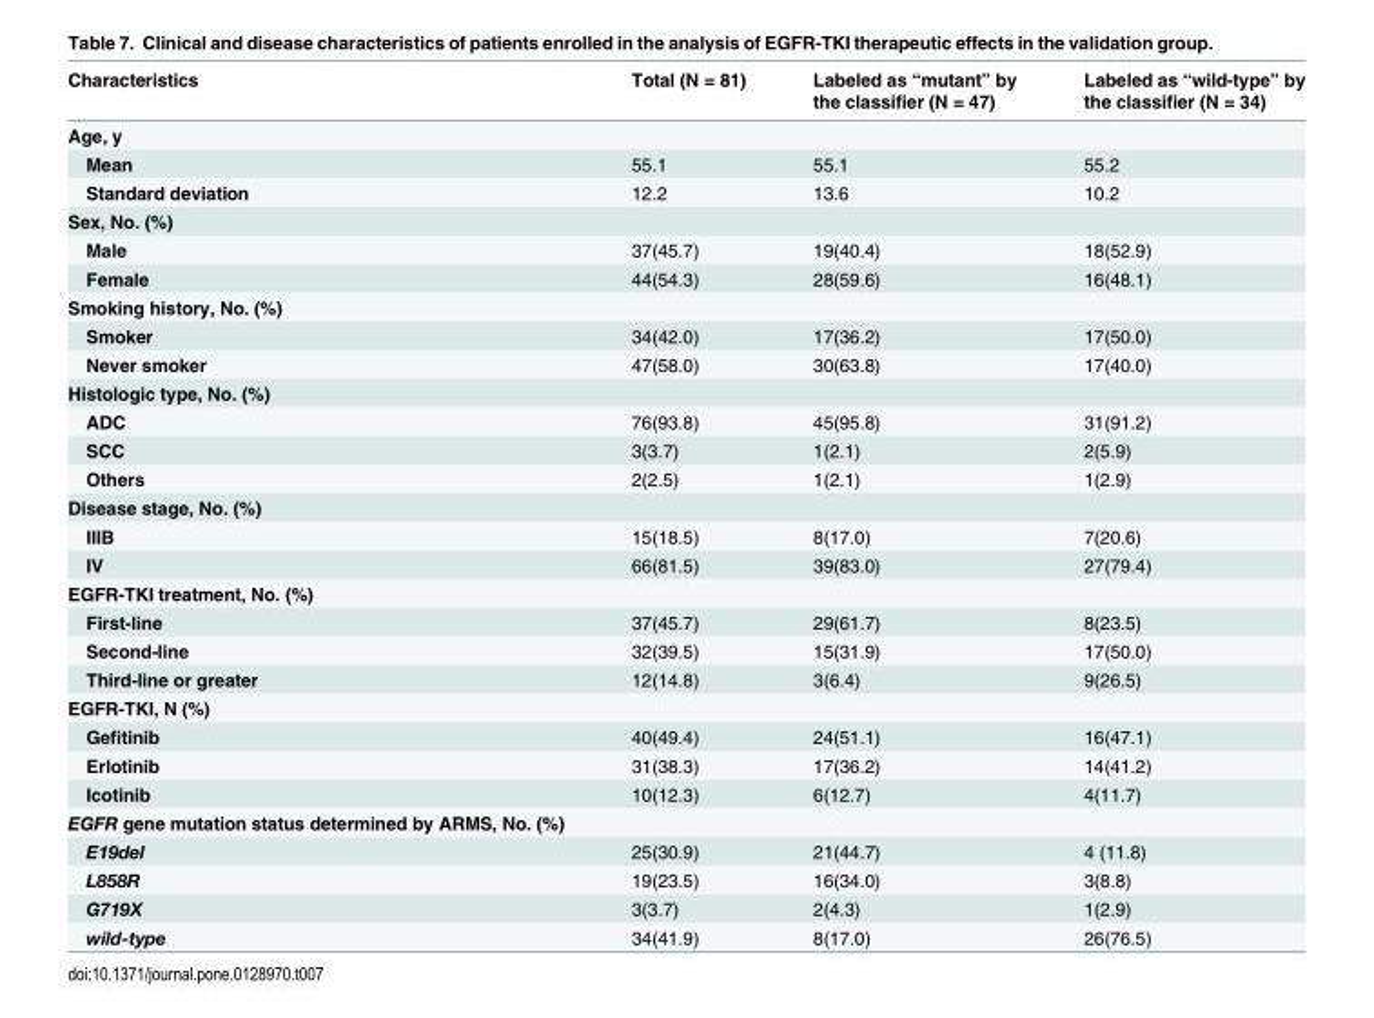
<table><thead><tr><td>Characteristics</td><td>Total (N = 81)</td><td>Labeled as “mutant” by the classifier (N = 47)</td><td>Labeled as “wild-type” by the classifier (N = 34)</td></tr></thead><tbody><tr><td colspan="4">Age, y</td></tr><tr><td>Mean</td><td>55.1</td><td>55.1</td><td>55.2</td></tr><tr><td>Standard deviation</td><td>12.2</td><td>13.6</td><td>10.2</td></tr><tr><td colspan="4">Sex, No. (%)</td></tr><tr><td>Male</td><td>37(45.7)</td><td>19(40.4)</td><td>18(52.9)</td></tr><tr><td>Female</td><td>44(54.3)</td><td>28(59.6)</td><td>16(48.1)</td></tr><tr><td colspan="4">Smoking history, No. (%)</td></tr><tr><td>Smoker</td><td>34(42.0)</td><td>17(36.2)</td><td>17(50.0)</td></tr><tr><td>Never smoker</td><td>47(58.0)</td><td>30(63.8)</td><td>17(40.0)</td></tr><tr><td colspan="4">Histologic type, No. (%)</td></tr><tr><td>ADC</td><td>76(93.8)</td><td>45(95.8)</td><td>31(91.2)</td></tr><tr><td>SCC</td><td>3(3.7)</td><td>1(2.1)</td><td>2(5.9)</td></tr><tr><td>Others</td><td>2(2.5)</td><td>1(2.1)</td><td>1(2.9)</td></tr><tr><td colspan="4">Disease stage, No. (%)</td></tr><tr><td>IIIB</td><td>15(18.5)</td><td>8(17.0)</td><td>7(20.6)</td></tr><tr><td>IV</td><td>66(81.5)</td><td>39(83.0)</td><td>27(79.4)</td></tr><tr><td colspan="4">EGFR-TKI treatment, No. (%)</td></tr><tr><td>First-line</td><td>37(45.7)</td><td>29(61.7)</td><td>8(23.5)</td></tr><tr><td>Second-line</td><td>32(39.5)</td><td>15(31.9)</td><td>17(50.0)</td></tr><tr><td>Third-line or greater</td><td>12(14.8)</td><td>3(6.4)</td><td>9(26.5)</td></tr><tr><td colspan="4">EGFR-TKI, N (%)</td></tr><tr><td>Gefitinib</td><td>40(49.4)</td><td>24(51.1)</td><td>16(47.1)</td></tr><tr><td>Erlotinib</td><td>31(38.3)</td><td>17(36.2)</td><td>14(41.2)</td></tr><tr><td>Icotinib</td><td>10(12.3)</td><td>6(12.7)</td><td>4(11.7)</td></tr><tr><td colspan="4">EGFR gene mutation status determined by ARMS, No. (%)</td></tr><tr><td>E19del</td><td>25(30.9)</td><td>21(44.7)</td><td>4 (11.8)</td></tr><tr><td>L858R</td><td>19(23.5)</td><td>16(34.0)</td><td>3(8.8)</td></tr><tr><td>G719X</td><td>3(3.7)</td><td>2(4.3)</td><td>1(2.9)</td></tr><tr><td>wild-type</td><td>34(41.9)</td><td>8(17.0)</td><td>26(76.5)</td></tr></tbody></table>